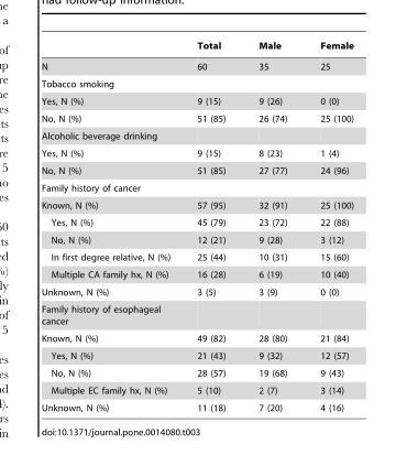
<table><thead><tr><td></td><td>Total</td><td>Male</td><td>Female</td></tr></thead><tbody><tr><td>N</td><td>60</td><td>35</td><td>25</td></tr><tr><td colspan="4">Tobacco smoking</td></tr><tr><td>Yes, N (%)</td><td>9 (15)</td><td>9 (26)</td><td>0 (0)</td></tr><tr><td>No, N (%)</td><td>51 (85)</td><td>26 (74)</td><td>25 (100)</td></tr><tr><td colspan="4">Alcoholic beverage drinking</td></tr><tr><td>Yes, N (%)</td><td>9 (15)</td><td>8 (23)</td><td>1 (4)</td></tr><tr><td>No, N (%)</td><td>51 (85)</td><td>27 (77)</td><td>24 (96)</td></tr><tr><td colspan="4">Family history of cancer</td></tr><tr><td>Known, N (%)</td><td>57 (95)</td><td>32 (91)</td><td>25 (100)</td></tr><tr><td>Yes, N (%)</td><td>45 (79)</td><td>23 (72)</td><td>22 (88)</td></tr><tr><td>No, N (%)</td><td>12 (21)</td><td>9 (28)</td><td>3 (12)</td></tr><tr><td>In first degree relative, N (%)</td><td>25 (44)</td><td>10 (31)</td><td>15 (60)</td></tr><tr><td>Multiple CA family hx, N (%)</td><td>16 (28)</td><td>6 (19)</td><td>10 (40)</td></tr><tr><td>Unknown, N (%)</td><td>3 (5)</td><td>3 (9)</td><td>0 (0)</td></tr><tr><td colspan="4">Family history of esophageal cancer</td></tr><tr><td>Known, N (%)</td><td>49 (82)</td><td>28 (80)</td><td>21 (84)</td></tr><tr><td>Yes, N (%)</td><td>21 (43)</td><td>9 (32)</td><td>12 (57)</td></tr><tr><td>No, N (%)</td><td>28 (57)</td><td>19 (68)</td><td>9 (43)</td></tr><tr><td>Multiple EC family hx, N (%)</td><td>5 (10)</td><td>2 (7)</td><td>3 (14)</td></tr><tr><td>Unknown, N (%)</td><td>11 (18)</td><td>7 (20)</td><td>4 (16)</td></tr></tbody></table>